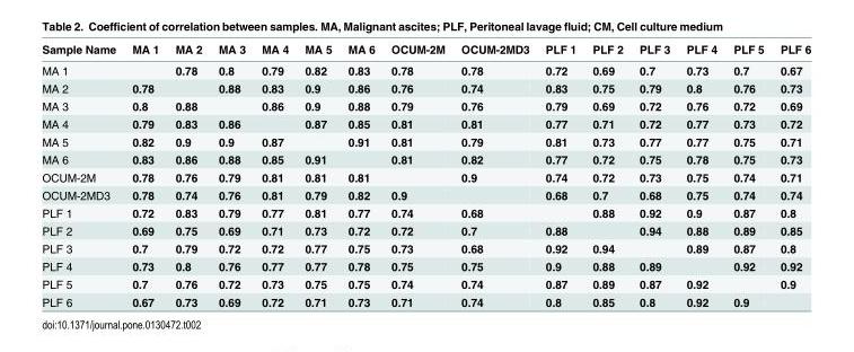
<table><thead><tr><td>Sample Name</td><td>MA 1</td><td>MA 2</td><td>MA 3</td><td>MA 4</td><td>MA 5</td><td>MA 6</td><td>OCUM-2M</td><td>OCUM-2MD3</td><td>PLF 1</td><td>PLF 2</td><td>PLF 3</td><td>PLF 4</td><td>PLF 5</td><td>PLF 6</td></tr></thead><tbody><tr><td>MA 1</td><td></td><td>0.78</td><td>0.8</td><td>0.79</td><td>0.82</td><td>0.83</td><td>0.78</td><td>0.78</td><td>0.72</td><td>0.69</td><td>0.7</td><td>0.73</td><td>0.7</td><td>0.67</td></tr><tr><td>MA 2</td><td>0.78</td><td></td><td>0.88</td><td>0.83</td><td>0.9</td><td>0.86</td><td>0.76</td><td>0.74</td><td>0.83</td><td>0.75</td><td>0.79</td><td>0.8</td><td>0.76</td><td>0.73</td></tr><tr><td>MA 3</td><td>0.8</td><td>0.88</td><td></td><td>0.86</td><td>0.9</td><td>0.88</td><td>0.79</td><td>0.76</td><td>0.79</td><td>0.69</td><td>0.72</td><td>0.76</td><td>0.72</td><td>0.69</td></tr><tr><td>MA 4</td><td>0.79</td><td>0.83</td><td>0.86</td><td></td><td>0.87</td><td>0.85</td><td>0.81</td><td>0.81</td><td>0.77</td><td>0.71</td><td>0.72</td><td>0.77</td><td>0.73</td><td>0.72</td></tr><tr><td>MA 5</td><td>0.82</td><td>0.9</td><td>0.9</td><td>0.87</td><td></td><td>0.91</td><td>0.81</td><td>0.79</td><td>0.81</td><td>0.73</td><td>0.77</td><td>0.77</td><td>0.75</td><td>0.71</td></tr><tr><td>MA 6</td><td>0.83</td><td>0.86</td><td>0.88</td><td>0.85</td><td>0.91</td><td></td><td>0.81</td><td>0.82</td><td>0.77</td><td>0.72</td><td>0.75</td><td>0.78</td><td>0.75</td><td>0.73</td></tr><tr><td>OCUM-2M</td><td>0.78</td><td>0.76</td><td>0.79</td><td>0.81</td><td>0.81</td><td>0.81</td><td></td><td>0.9</td><td>0.74</td><td>0.72</td><td>0.73</td><td>0.75</td><td>0.74</td><td>0.71</td></tr><tr><td>OCUM-2MD3</td><td>0.78</td><td>0.74</td><td>0.76</td><td>0.81</td><td>0.79</td><td>0.82</td><td>0.9</td><td></td><td>0.68</td><td>0.7</td><td>0.68</td><td>0.75</td><td>0.74</td><td>0.74</td></tr><tr><td>PLF 1</td><td>0.72</td><td>0.83</td><td>0.79</td><td>0.77</td><td>0.81</td><td>0.77</td><td>0.74</td><td>0.68</td><td></td><td>0.88</td><td>0.92</td><td>0.9</td><td>0.87</td><td>0.8</td></tr><tr><td>PLF 2</td><td>0.69</td><td>0.75</td><td>0.69</td><td>0.71</td><td>0.73</td><td>0.72</td><td>0.72</td><td>0.7</td><td>0.88</td><td></td><td>0.94</td><td>0.88</td><td>0.89</td><td>0.85</td></tr><tr><td>PLF 3</td><td>0.7</td><td>0.79</td><td>0.72</td><td>0.72</td><td>0.77</td><td>0.75</td><td>0.73</td><td>0.68</td><td>0.92</td><td>0.94</td><td></td><td>0.89</td><td>0.87</td><td>0.8</td></tr><tr><td>PLF 4</td><td>0.73</td><td>0.8</td><td>0.76</td><td>0.77</td><td>0.77</td><td>0.78</td><td>0.75</td><td>0.75</td><td>0.9</td><td>0.88</td><td>0.89</td><td></td><td>0.92</td><td>0.92</td></tr><tr><td>PLF 5</td><td>0.7</td><td>0.76</td><td>0.72</td><td>0.73</td><td>0.75</td><td>0.75</td><td>0.74</td><td>0.74</td><td>0.87</td><td>0.89</td><td>0.87</td><td>0.92</td><td></td><td>0.9</td></tr><tr><td>PLF 6</td><td>0.67</td><td>0.73</td><td>0.69</td><td>0.72</td><td>0.71</td><td>0.73</td><td>0.71</td><td>0.74</td><td>0.8</td><td>0.85</td><td>0.8</td><td>0.92</td><td>0.9</td><td></td></tr></tbody></table>